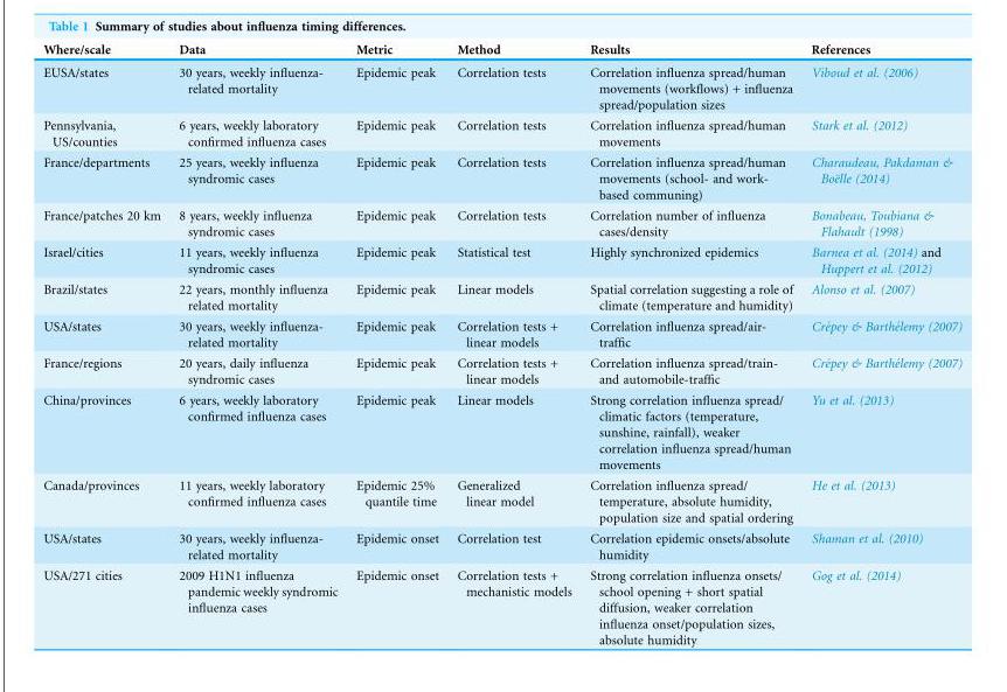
<table><thead><tr><td>Where/scale</td><td>Data</td><td>Metric</td><td>Method</td><td>Results</td><td>References</td></tr></thead><tbody><tr><td>EUSA/states</td><td>30 years, weekly influenza- related mortality</td><td>Epidemic peak</td><td>Correlation tests</td><td>Correlation influenza spread/human movements (workflows) + influenza spread/population sizes</td><td>Viboud et al. (2006)</td></tr><tr><td>Pennsylvania, US/counties</td><td>6 years, weekly laboratory confirmed influenza cases</td><td>Epidemic peak</td><td>Correlation tests</td><td>Correlation influenza spread/human movements</td><td>Stark et al. (2012)</td></tr><tr><td>France/departments</td><td>25 years, weekly influenza syndromic cases</td><td>Epidemic peak</td><td>Correlation tests</td><td>Correlation influenza spread/human movements (school- and work- based communing)</td><td>Charaudeau, Pakdaman &amp; Boe¨lle (2014)</td></tr><tr><td>France/patches 20 km</td><td>8 years, weekly influenza syndromic cases</td><td>Epidemic peak</td><td>Correlation tests</td><td>Correlation number of influenza cases/density</td><td>Bonabeau, Toubiana &amp; Flahault (1998)</td></tr><tr><td>Israel/cities</td><td>11 years, weekly influenza syndromic cases</td><td>Epidemic peak</td><td>Statistical test</td><td>Highly synchronized epidemics</td><td>Barnea et al. (2014) and Huppert et al. (2012)</td></tr><tr><td>Brazil/states</td><td>22 years, monthly influenza related mortality</td><td>Epidemic peak</td><td>Linear models</td><td>Spatial correlation suggesting a role of climate (temperature and humidity)</td><td>Alonso et al. (2007)</td></tr><tr><td>USA/states</td><td>30 years, weekly influenza- related mortality</td><td>Epidemic peak</td><td>Correlation tests + linear models</td><td>Correlation influenza spread/air- traffic</td><td>Cre´pey &amp; Barthe´lemy (2007)</td></tr><tr><td>France/regions</td><td>20 years, daily influenza syndromic cases</td><td>Epidemic peak</td><td>Correlation tests + linear models</td><td>Correlation influenza spread/train- and automobile-traffic</td><td>Cre´pey &amp; Barthe´lemy (2007)</td></tr><tr><td>China/provinces</td><td>6 years, weekly laboratory confirmed influenza cases</td><td>Epidemic peak</td><td>Linear models</td><td>Strong correlation influenza spread/ climatic factors (temperature, sunshine, rainfall), weaker correlation influenza spread/human movements</td><td>Yu et al. (2013)</td></tr><tr><td>Canada/provinces</td><td>11 years, weekly laboratory confirmed influenza cases</td><td>Epidemic 25% quantile time</td><td>Generalized linear model</td><td>Correlation influenza spread/ temperature, absolute humidity, population size and spatial ordering</td><td>He et al. (2013)</td></tr><tr><td>USA/states</td><td>30 years, weekly influenza- related mortality</td><td>Epidemic onset</td><td>Correlation test</td><td>Correlation epidemic onsets/absolute humidity</td><td>Shaman et al. (2010)</td></tr><tr><td>USA/271 cities</td><td>2009 H1N1 influenza pandemic weekly syndromic influenza cases</td><td>Epidemic onset</td><td>Correlation tests + mechanistic models</td><td>Strong correlation influenza onsets/ school opening + short spatial diffusion, weaker correlation influenza onset/population sizes, absolute humidity</td><td>Gog et al. (2014)</td></tr></tbody></table>